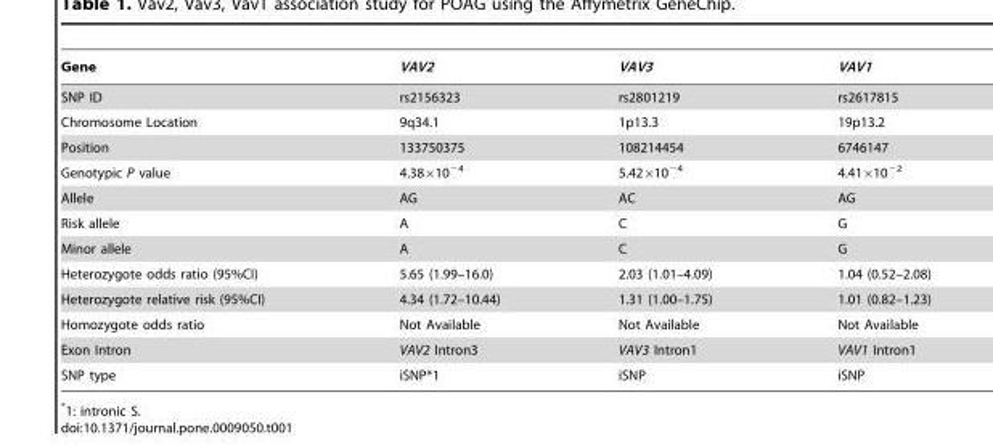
<table><thead><tr><td>Gene</td><td>VAV2</td><td>VAV3</td><td>VAV1</td></tr></thead><tbody><tr><td>SNP ID</td><td>rs2156323</td><td>rs2801219</td><td>rs2617815</td></tr><tr><td>Chromosome Location</td><td>9q34.1</td><td>1p13.3</td><td>19p13.2</td></tr><tr><td>Position</td><td>133750375</td><td>108214454</td><td>6746147</td></tr><tr><td>Genotypic P value</td><td>4.38×10<sup>−4</sup></td><td>5.42×10<sup>−4</sup></td><td>4.41×10<sup>−2</sup></td></tr><tr><td>Allele</td><td>AG</td><td>AC</td><td>AG</td></tr><tr><td>Risk allele</td><td>A</td><td>C</td><td>G</td></tr><tr><td>Minor allele</td><td>A</td><td>C</td><td>G</td></tr><tr><td>Heterozygote odds ratio (95%CI)</td><td>5.65 (1.99–16.0)</td><td>2.03 (1.01–4.09)</td><td>1.04 (0.52–2.08)</td></tr><tr><td>Heterozygote relative risk (95%CI)</td><td>4.34 (1.72–10.44)</td><td>1.31 (1.00–1.75)</td><td>1.01 (0.82–1.23)</td></tr><tr><td>Homozygote odds ratio</td><td>Not Available</td><td>Not Available</td><td>Not Available</td></tr><tr><td>Exon Intron</td><td>VAV2 Intron3</td><td>VAV3 Intron1</td><td>VAV1 Intron1</td></tr><tr><td>SNP type</td><td>iSNP*1</td><td>iSNP</td><td>iSNP</td></tr></tbody></table>